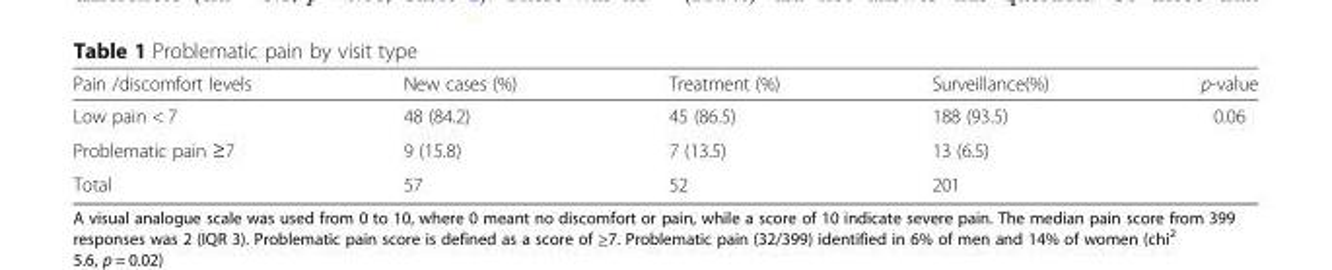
<table><thead><tr><td>Pain /discomfort levels</td><td>New cases (%)</td><td>Treatment (%)</td><td>Surveillance(%)</td><td>p-value</td></tr></thead><tbody><tr><td>Low pain &lt; 7</td><td>48 (84.2)</td><td>45 (86.5)</td><td>188 (93.5)</td><td rowspan="2">0.06</td></tr><tr><td>Problematic pain ≥7</td><td>9 (15.8)</td><td>7 (13.5)</td><td>13 (6.5)</td></tr><tr><td>Total</td><td>57</td><td>52</td><td>201</td><td></td></tr></tbody></table>